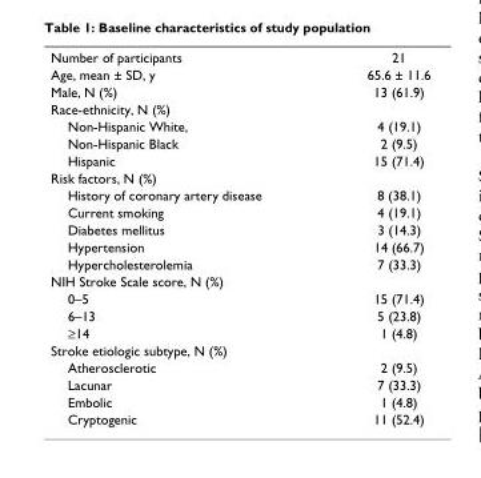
<table><tbody><tr><td>Number of participants</td><td>21</td></tr><tr><td>Age, mean ± SD, y</td><td>65.6 ± 11.6</td></tr><tr><td>Male, N (%)</td><td>13 (61.9)</td></tr><tr><td colspan="2">Race-ethnicity, N (%)</td></tr><tr><td>Non-Hispanic White,</td><td>4 (19.1)</td></tr><tr><td>Non-Hispanic Black</td><td>2 (9.5)</td></tr><tr><td>Hispanic</td><td>15 (71.4)</td></tr><tr><td colspan="2">Risk factors, N (%)</td></tr><tr><td>History of coronary artery disease</td><td>8 (38.1)</td></tr><tr><td>Current smoking</td><td>4 (19.1)</td></tr><tr><td>Diabetes mellitus</td><td>3 (14.3)</td></tr><tr><td>Hypertension</td><td>14 (66.7)</td></tr><tr><td>Hypercholesterolemia</td><td>7 (33.3)</td></tr><tr><td colspan="2">NIH Stroke Scale score, N (%)</td></tr><tr><td>0–5</td><td>15 (71.4)</td></tr><tr><td>6–13</td><td>5 (23.8)</td></tr><tr><td>≥14</td><td>1 (4.8)</td></tr><tr><td colspan="2">Stroke etiologic subtype, N (%)</td></tr><tr><td>Atherosclerotic</td><td>2 (9.5)</td></tr><tr><td>Lacunar</td><td>7 (33.3)</td></tr><tr><td>Embolic</td><td>1 (4.8)</td></tr><tr><td>Cryptogenic</td><td>11 (52.4)</td></tr></tbody></table>